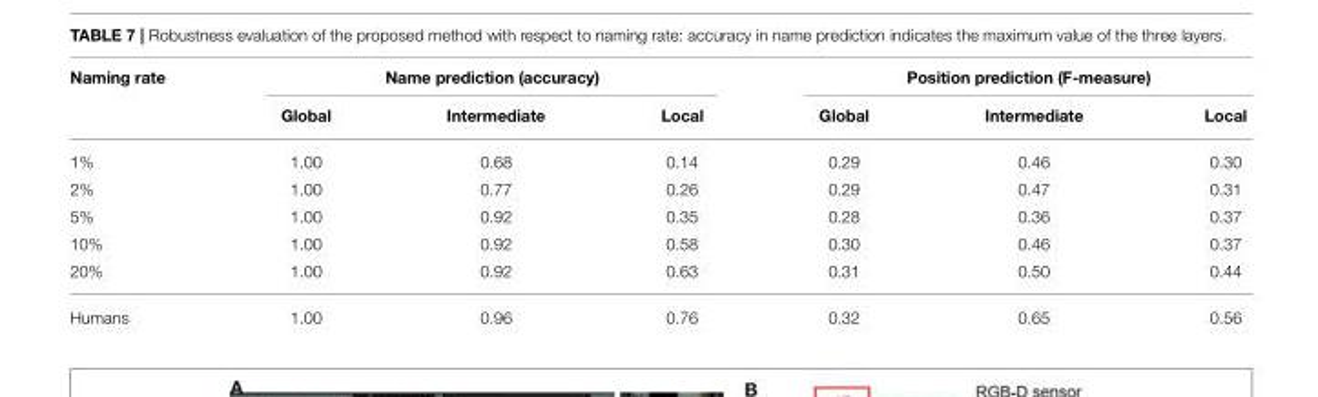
<table><thead><tr><td rowspan="2">Naming rate</td><td colspan="3">Name prediction (accuracy)</td><td colspan="3">Position prediction (F-measure)</td></tr><tr><td>Global</td><td>Intermediate</td><td>Local</td><td>Global</td><td>Intermediate</td><td>Local</td></tr></thead><tbody><tr><td>1%</td><td>1.00</td><td>0.68</td><td>0.14</td><td>0.29</td><td>0.46</td><td>0.30</td></tr><tr><td>2%</td><td>1.00</td><td>0.77</td><td>0.26</td><td>0.29</td><td>0.47</td><td>0.31</td></tr><tr><td>5%</td><td>1.00</td><td>0.92</td><td>0.35</td><td>0.28</td><td>0.36</td><td>0.37</td></tr><tr><td>10%</td><td>1.00</td><td>0.92</td><td>0.58</td><td>0.30</td><td>0.46</td><td>0.37</td></tr><tr><td>20%</td><td>1.00</td><td>0.92</td><td>0.63</td><td>0.31</td><td>0.50</td><td>0.44</td></tr><tr><td>Humans</td><td>1.00</td><td>0.96</td><td>0.76</td><td>0.32</td><td>0.65</td><td>0.56</td></tr></tbody></table>